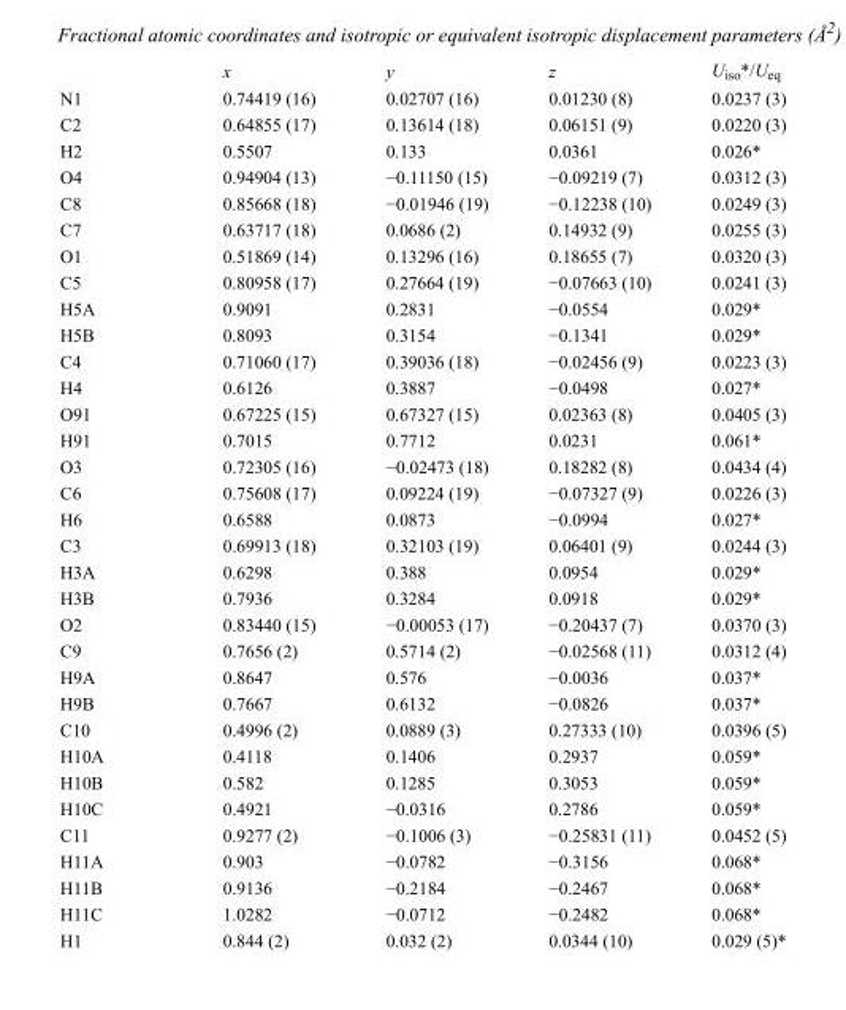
<table><thead><tr><td></td><td>x</td><td>y</td><td>z</td><td>U<sub>iso</sub>*/U<sub>eq</sub></td></tr></thead><tbody><tr><td>N1</td><td>0.74419 (16)</td><td>0.02707 (16)</td><td>0.01230 (8)</td><td>0.0237 (3)</td></tr><tr><td>C2</td><td>0.64855 (17)</td><td>0.13614 (18)</td><td>0.06151 (9)</td><td>0.0220 (3)</td></tr><tr><td>H2</td><td>0.5507</td><td>0.133</td><td>0.0361</td><td>0.026*</td></tr><tr><td>O4</td><td>0.94904 (13)</td><td>−0.11150 (15)</td><td>−0.09219 (7)</td><td>0.0312 (3)</td></tr><tr><td>C8</td><td>0.85668 (18)</td><td>−0.01946 (19)</td><td>−0.12238 (10)</td><td>0.0249 (3)</td></tr><tr><td>C7</td><td>0.63717 (18)</td><td>0.0686 (2)</td><td>0.14932 (9)</td><td>0.0255 (3)</td></tr><tr><td>O1</td><td>0.51869 (14)</td><td>0.13296 (16)</td><td>0.18655 (7)</td><td>0.0320 (3)</td></tr><tr><td>C5</td><td>0.80958 (17)</td><td>0.27664 (19)</td><td>−0.07663 (10)</td><td>0.0241 (3)</td></tr><tr><td>H5A</td><td>0.9091</td><td>0.2831</td><td>−0.0554</td><td>0.029*</td></tr><tr><td>H5B</td><td>0.8093</td><td>0.3154</td><td>−0.1341</td><td>0.029*</td></tr><tr><td>C4</td><td>0.71060 (17)</td><td>0.39036 (18)</td><td>−0.02456 (9)</td><td>0.0223 (3)</td></tr><tr><td>H4</td><td>0.6126</td><td>0.3887</td><td>−0.0498</td><td>0.027*</td></tr><tr><td>O91</td><td>0.67225 (15)</td><td>0.67327 (15)</td><td>0.02363 (8)</td><td>0.0405 (3)</td></tr><tr><td>H91</td><td>0.7015</td><td>0.7712</td><td>0.0231</td><td>0.061*</td></tr><tr><td>O3</td><td>0.72305 (16)</td><td>−0.02473 (18)</td><td>0.18282 (8)</td><td>0.0434 (4)</td></tr><tr><td>C6</td><td>0.75608 (17)</td><td>0.09224 (19)</td><td>−0.07327 (9)</td><td>0.0226 (3)</td></tr><tr><td>H6</td><td>0.6588</td><td>0.0873</td><td>−0.0994</td><td>0.027*</td></tr><tr><td>C3</td><td>0.69913 (18)</td><td>0.32103 (19)</td><td>0.06401 (9)</td><td>0.0244 (3)</td></tr><tr><td>H3A</td><td>0.6298</td><td>0.388</td><td>0.0954</td><td>0.029*</td></tr><tr><td>H3B</td><td>0.7936</td><td>0.3284</td><td>0.0918</td><td>0.029*</td></tr><tr><td>O2</td><td>0.83440 (15)</td><td>−0.00053 (17)</td><td>−0.20437 (7)</td><td>0.0370 (3)</td></tr><tr><td>C9</td><td>0.7656 (2)</td><td>0.5714 (2)</td><td>−0.02568 (11)</td><td>0.0312 (4)</td></tr><tr><td>H9A</td><td>0.8647</td><td>0.576</td><td>−0.0036</td><td>0.037*</td></tr><tr><td>H9B</td><td>0.7667</td><td>0.6132</td><td>−0.0826</td><td>0.037*</td></tr><tr><td>C10</td><td>0.4996 (2)</td><td>0.0889 (3)</td><td>0.27333 (10)</td><td>0.0396 (5)</td></tr><tr><td>H10A</td><td>0.4118</td><td>0.1406</td><td>0.2937</td><td>0.059*</td></tr><tr><td>H10B</td><td>0.582</td><td>0.1285</td><td>0.3053</td><td>0.059*</td></tr><tr><td>H10C</td><td>0.4921</td><td>−0.0316</td><td>0.2786</td><td>0.059*</td></tr><tr><td>C11</td><td>0.9277 (2)</td><td>−0.1006 (3)</td><td>−0.25831 (11)</td><td>0.0452 (5)</td></tr><tr><td>H11A</td><td>0.903</td><td>−0.0782</td><td>−0.3156</td><td>0.068*</td></tr><tr><td>H11B</td><td>0.9136</td><td>−0.2184</td><td>−0.2467</td><td>0.068*</td></tr><tr><td>H11C</td><td>1.0282</td><td>−0.0712</td><td>−0.2482</td><td>0.068*</td></tr><tr><td>H1</td><td>0.844 (2)</td><td>0.032 (2)</td><td>0.0344 (10)</td><td>0.029 (5)*</td></tr></tbody></table>